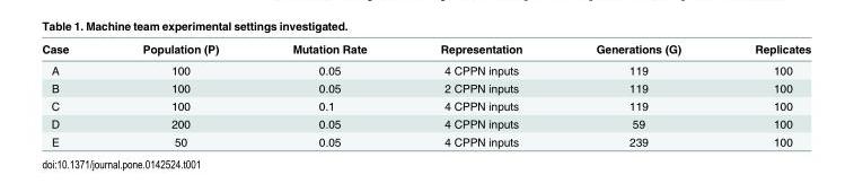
<table><thead><tr><td>Case</td><td>Population (P)</td><td>Mutation Rate</td><td>Representation</td><td>Generations (G)</td><td>Replicates</td></tr></thead><tbody><tr><td>A</td><td>100</td><td>0.05</td><td>4 CPPN inputs</td><td>119</td><td>100</td></tr><tr><td>B</td><td>100</td><td>0.05</td><td>2 CPPN inputs</td><td>119</td><td>100</td></tr><tr><td>C</td><td>100</td><td>0.1</td><td>4 CPPN inputs</td><td>119</td><td>100</td></tr><tr><td>D</td><td>200</td><td>0.05</td><td>4 CPPN inputs</td><td>59</td><td>100</td></tr><tr><td>E</td><td>50</td><td>0.05</td><td>4 CPPN inputs</td><td>239</td><td>100</td></tr></tbody></table>